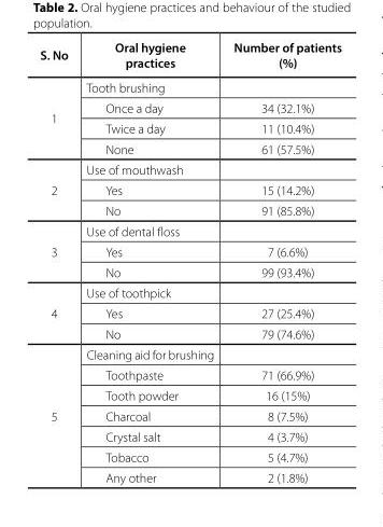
<table><thead><tr><td>S. No</td><td>Oral hygiene practices</td><td>Number of patients (%)</td></tr></thead><tbody><tr><td rowspan="4">1</td><td>Tooth brushing</td><td></td></tr><tr><td>Once a day</td><td>34 (32.1%)</td></tr><tr><td>Twice a day</td><td>11 (10.4%)</td></tr><tr><td>None</td><td>61 (57.5%)</td></tr><tr><td rowspan="3">2</td><td>Use of mouthwash</td><td></td></tr><tr><td>Yes</td><td>15 (14.2%)</td></tr><tr><td>No</td><td>91 (85.8%)</td></tr><tr><td rowspan="3">3</td><td>Use of dental floss</td><td></td></tr><tr><td>Yes</td><td>7 (6.6%)</td></tr><tr><td>No</td><td>99 (93.4%)</td></tr><tr><td rowspan="3">4</td><td>Use of toothpick</td><td></td></tr><tr><td>Yes</td><td>27 (25.4%)</td></tr><tr><td>No</td><td>79 (74.6%)</td></tr><tr><td rowspan="7">5</td><td>Cleaning aid for brushing</td><td></td></tr><tr><td>Toothpaste</td><td>71 (66.9%)</td></tr><tr><td>Tooth powder</td><td>16 (15%)</td></tr><tr><td>Charcoal</td><td>8 (7.5%)</td></tr><tr><td>Crystal salt</td><td>4 (3.7%)</td></tr><tr><td>Tobacco</td><td>5 (4.7%)</td></tr><tr><td>Any other</td><td>2 (1.8%)</td></tr></tbody></table>